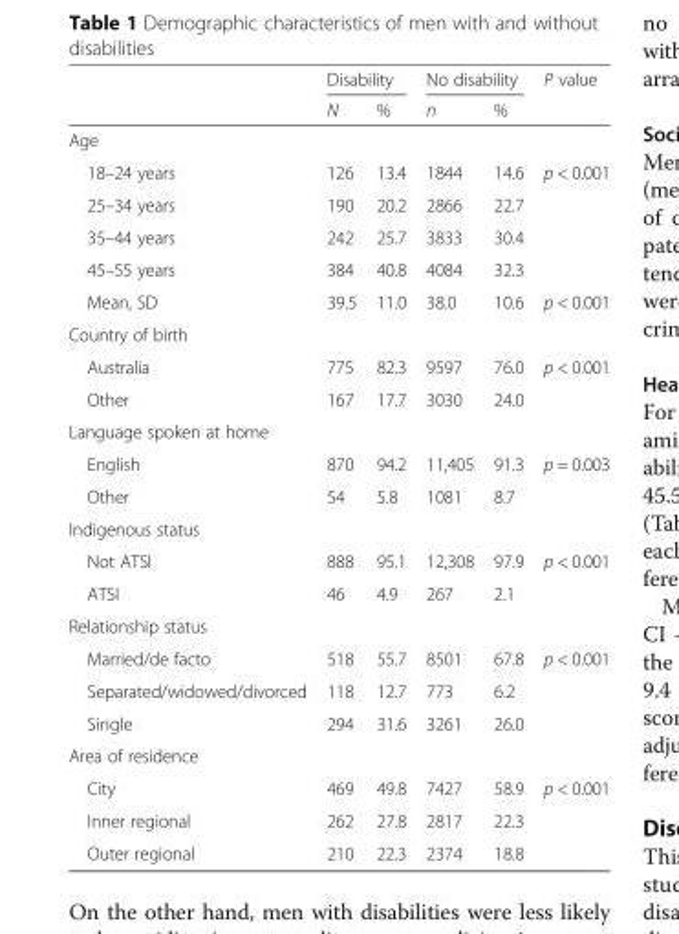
<table><thead><tr><td rowspan="2"></td><td colspan="2">Disability</td><td colspan="2">No disability</td><td rowspan="2">P value</td></tr><tr><td>N</td><td>%</td><td>n</td><td>%</td></tr></thead><tbody><tr><td colspan="6">Age</td></tr><tr><td>18–24 years</td><td>126</td><td>13.4</td><td>1844</td><td>14.6</td><td rowspan="4">p &lt; 0.001</td></tr><tr><td>25–34 years</td><td>190</td><td>20.2</td><td>2866</td><td>22.7</td></tr><tr><td>35–44 years</td><td>242</td><td>25.7</td><td>3833</td><td>30.4</td></tr><tr><td>45–55 years</td><td>384</td><td>40.8</td><td>4084</td><td>32.3</td></tr><tr><td>Mean, SD</td><td>39.5</td><td>11.0</td><td>38.0</td><td>10.6</td><td>p &lt; 0.001</td></tr><tr><td colspan="6">Country of birth</td></tr><tr><td>Australia</td><td>775</td><td>82.3</td><td>9597</td><td>76.0</td><td rowspan="2">p &lt; 0.001</td></tr><tr><td>Other</td><td>167</td><td>17.7</td><td>3030</td><td>24.0</td></tr><tr><td colspan="6">Language spoken at home</td></tr><tr><td>English</td><td>870</td><td>94.2</td><td>11,405</td><td>91.3</td><td rowspan="2">p = 0.003</td></tr><tr><td>Other</td><td>54</td><td>5.8</td><td>1081</td><td>8.7</td></tr><tr><td colspan="6">Indigenous status</td></tr><tr><td>Not ATSI</td><td>888</td><td>95.1</td><td>12,308</td><td>97.9</td><td rowspan="2">p &lt; 0.001</td></tr><tr><td>ATSI</td><td>46</td><td>4.9</td><td>267</td><td>2.1</td></tr><tr><td colspan="6">Relationship status</td></tr><tr><td>Married/de facto</td><td>518</td><td>55.7</td><td>8501</td><td>67.8</td><td rowspan="3">p &lt; 0.001</td></tr><tr><td>Separated/widowed/divorced</td><td>118</td><td>12.7</td><td>773</td><td>6.2</td></tr><tr><td>Single</td><td>294</td><td>31.6</td><td>3261</td><td>26.0</td></tr><tr><td colspan="6">Area of residence</td></tr><tr><td>City</td><td>469</td><td>49.8</td><td>7427</td><td>58.9</td><td rowspan="3">p &lt; 0.001</td></tr><tr><td>Inner regional</td><td>262</td><td>27.8</td><td>2817</td><td>22.3</td></tr><tr><td>Outer regional</td><td>210</td><td>22.3</td><td>2374</td><td>18.8</td></tr></tbody></table>